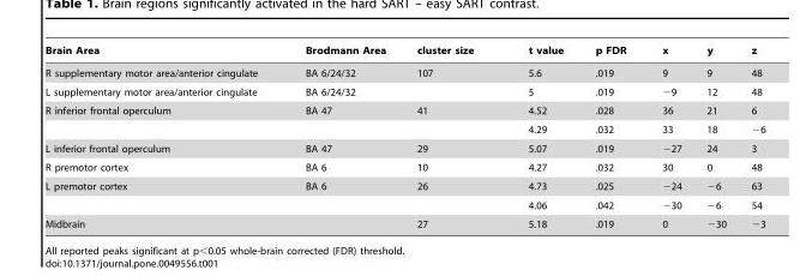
<table><thead><tr><td>Brain Area</td><td>Brodmann Area</td><td>cluster size</td><td>t value</td><td>p FDR</td><td>x</td><td>y</td><td>z</td></tr></thead><tbody><tr><td>R supplementary motor area/anterior cingulate</td><td>BA 6/24/32</td><td>107</td><td>5.6</td><td>.019</td><td>9</td><td>9</td><td>48</td></tr><tr><td>L supplementary motor area/anterior cingulate</td><td>BA 6/24/32</td><td></td><td>5</td><td>.019</td><td>−9</td><td>12</td><td>48</td></tr><tr><td rowspan="2">R inferior frontal operculum</td><td>BA 47</td><td>41</td><td>4.52</td><td>.028</td><td>36</td><td>21</td><td>6</td></tr><tr><td></td><td></td><td>4.29</td><td>.032</td><td>33</td><td>18</td><td>−6</td></tr><tr><td>L inferior frontal operculum</td><td>BA 47</td><td>29</td><td>5.07</td><td>.019</td><td>−27</td><td>24</td><td>3</td></tr><tr><td>R premotor cortex</td><td>BA 6</td><td>10</td><td>4.27</td><td>.032</td><td>30</td><td>0</td><td>48</td></tr><tr><td rowspan="2">L premotor cortex</td><td>BA 6</td><td>26</td><td>4.73</td><td>.025</td><td>−24</td><td>−6</td><td>63</td></tr><tr><td></td><td></td><td>4.06</td><td>.042</td><td>−30</td><td>−6</td><td>54</td></tr><tr><td>Midbrain</td><td></td><td>27</td><td>5.18</td><td>.019</td><td>0</td><td>−30</td><td>−3</td></tr></tbody></table>